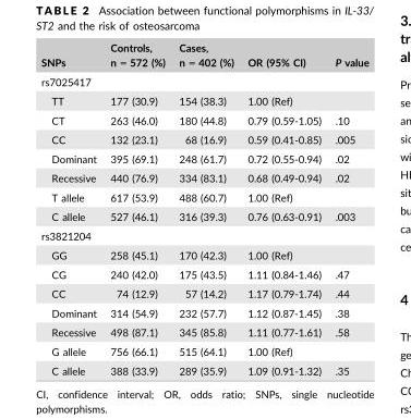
<table><thead><tr><td>SNPs</td><td>Controls, n = 572 (%)</td><td>Cases, n = 402 (%)</td><td>OR (95% CI)</td><td>P value</td></tr></thead><tbody><tr><td colspan="5">rs7025417</td></tr><tr><td>TT</td><td>177 (30.9)</td><td>154 (38.3)</td><td>1.00 (Ref)</td><td></td></tr><tr><td>CT</td><td>263 (46.0)</td><td>180 (44.8)</td><td>0.79 (0.59-1.05)</td><td>.10</td></tr><tr><td>CC</td><td>132 (23.1)</td><td>68 (16.9)</td><td>0.59 (0.41-0.85)</td><td>.005</td></tr><tr><td>Dominant</td><td>395 (69.1)</td><td>248 (61.7)</td><td>0.72 (0.55-0.94)</td><td>.02</td></tr><tr><td>Recessive</td><td>440 (76.9)</td><td>334 (83.1)</td><td>0.68 (0.49-0.94)</td><td>.02</td></tr><tr><td>T allele</td><td>617 (53.9)</td><td>488 (60.7)</td><td>1.00 (Ref)</td><td></td></tr><tr><td>C allele</td><td>527 (46.1)</td><td>316 (39.3)</td><td>0.76 (0.63-0.91)</td><td>.003</td></tr><tr><td colspan="5">rs3821204</td></tr><tr><td>GG</td><td>258 (45.1)</td><td>170 (42.3)</td><td>1.00 (Ref)</td><td></td></tr><tr><td>CG</td><td>240 (42.0)</td><td>175 (43.5)</td><td>1.11 (0.84-1.46)</td><td>.47</td></tr><tr><td>CC</td><td>74 (12.9)</td><td>57 (14.2)</td><td>1.17 (0.79-1.74)</td><td>.44</td></tr><tr><td>Dominant</td><td>314 (54.9)</td><td>232 (57.7)</td><td>1.12 (0.87-1.45)</td><td>.38</td></tr><tr><td>Recessive</td><td>498 (87.1)</td><td>345 (85.8)</td><td>1.11 (0.77-1.61)</td><td>.58</td></tr><tr><td>G allele</td><td>756 (66.1)</td><td>515 (64.1)</td><td>1.00 (Ref)</td><td></td></tr><tr><td>C allele</td><td>388 (33.9)</td><td>289 (35.9)</td><td>1.09 (0.91-1.32)</td><td>.35</td></tr></tbody></table>